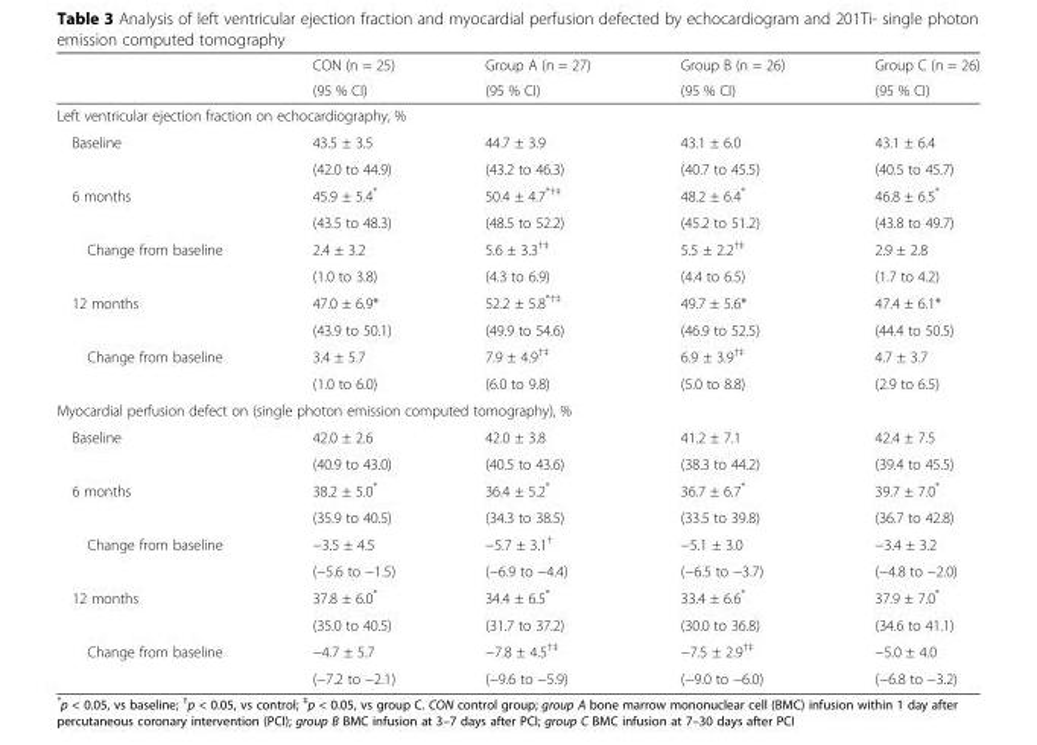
<table><thead><tr><td rowspan="2"></td><td rowspan="2">CON (n = 25) (95 % CI)</td><td rowspan="2">Group A (n = 27) (95 % CI)</td><td rowspan="2">Group B (n = 26) (95 % CI)</td><td rowspan="2">Group C (n = 26) (95 % CI)</td></tr><tr></tr></thead><tbody><tr><td colspan="5">Left ventricular ejection fraction on echocardiography, %</td></tr><tr><td rowspan="2">Baseline</td><td>43.5 ± 3.5</td><td>44.7 ± 3.9</td><td>43.1 ± 6.0</td><td>43.1 ± 6.4</td></tr><tr><td>(42.0 to 44.9)</td><td>(43.2 to 46.3)</td><td>(40.7 to 45.5)</td><td>(40.5 to 45.7)</td></tr><tr><td rowspan="2">6 months</td><td>45.9 ± 5.4*</td><td>50.4 ± 4.7<sup>*†‡</sup></td><td>48.2 ± 6.4*</td><td>46.8 ± 6.5*</td></tr><tr><td>(43.5 to 48.3)</td><td>(48.5 to 52.2)</td><td>(45.2 to 51.2)</td><td>(43.8 to 49.7)</td></tr><tr><td rowspan="2">Change from baseline</td><td>2.4 ± 3.2</td><td>5.6 ± 3.3<sup>†‡</sup></td><td>5.5 ± 2.2<sup>†‡</sup></td><td>2.9 ± 2.8</td></tr><tr><td>(1.0 to 3.8)</td><td>(4.3 to 6.9)</td><td>(4.4 to 6.5)</td><td>(1.7 to 4.2)</td></tr><tr><td rowspan="2">12 months</td><td>47.0 ± 6.9*</td><td>52.2 ± 5.8<sup>*†‡</sup></td><td>49.7 ± 5.6*</td><td>47.4 ± 6.1*</td></tr><tr><td>(43.9 to 50.1)</td><td>(49.9 to 54.6)</td><td>(46.9 to 52.5)</td><td>(44.4 to 50.5)</td></tr><tr><td rowspan="2">Change from baseline</td><td>3.4 ± 5.7</td><td>7.9 ± 4.9<sup>†‡</sup></td><td>6.9 ± 3.9<sup>†‡</sup></td><td>4.7 ± 3.7</td></tr><tr><td>(1.0 to 6.0)</td><td>(6.0 to 9.8)</td><td>(5.0 to 8.8)</td><td>(2.9 to 6.5)</td></tr><tr><td colspan="5">Myocardial perfusion defect on (single photon emission computed tomography), %</td></tr><tr><td rowspan="2">Baseline</td><td>42.0 ± 2.6</td><td>42.0 ± 3.8</td><td>41.2 ± 7.1</td><td>42.4 ± 7.5</td></tr><tr><td>(40.9 to 43.0)</td><td>(40.5 to 43.6)</td><td>(38.3 to 44.2)</td><td>(39.4 to 45.5)</td></tr><tr><td rowspan="2">6 months</td><td>38.2 ± 5.0*</td><td>36.4 ± 5.2*</td><td>36.7 ± 6.7*</td><td>39.7 ± 7.0*</td></tr><tr><td>(35.9 to 40.5)</td><td>(34.3 to 38.5)</td><td>(33.5 to 39.8)</td><td>(36.7 to 42.8)</td></tr><tr><td rowspan="2">Change from baseline</td><td>−3.5 ± 4.5</td><td>−5.7 ± 3.1<sup>†</sup></td><td>−5.1 ± 3.0</td><td>−3.4 ± 3.2</td></tr><tr><td>(−5.6 to −1.5)</td><td>(−6.9 to −4.4)</td><td>(−6.5 to −3.7)</td><td>(−4.8 to −2.0)</td></tr><tr><td rowspan="2">12 months</td><td>37.8 ± 6.0*</td><td>34.4 ± 6.5*</td><td>33.4 ± 6.6*</td><td>37.9 ± 7.0*</td></tr><tr><td>(35.0 to 40.5)</td><td>(31.7 to 37.2)</td><td>(30.0 to 36.8)</td><td>(34.6 to 41.1)</td></tr><tr><td rowspan="2">Change from baseline</td><td>−4.7 ± 5.7</td><td>−7.8 ± 4.5<sup>†‡</sup></td><td>−7.5 ± 2.9<sup>†‡</sup></td><td>−5.0 ± 4.0</td></tr><tr><td>(−7.2 to −2.1)</td><td>(−9.6 to −5.9)</td><td>(−9.0 to −6.0)</td><td>(−6.8 to −3.2)</td></tr></tbody></table>